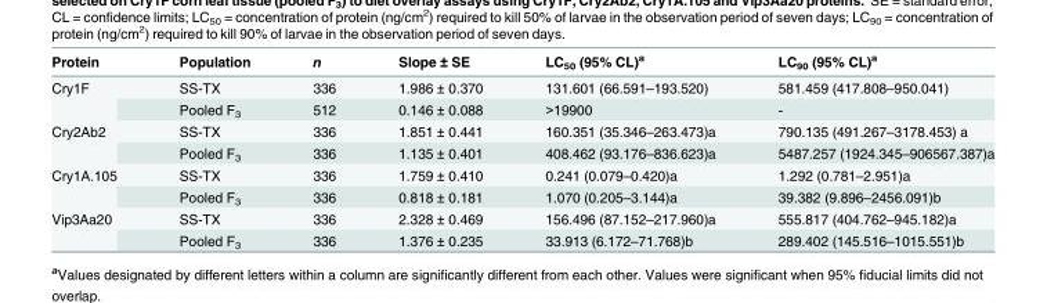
<table><thead><tr><td>Protein</td><td>Population</td><td>n</td><td>Slope ± SE</td><td>LC<sub>50</sub> (95% CL)<sup>a</sup></td><td>LC<sub>90</sub> (95% CL)<sup>a</sup></td></tr></thead><tbody><tr><td rowspan="2">Cry1F</td><td>SS-TX</td><td>336</td><td>1.986 ± 0.370</td><td>131.601 (66.591–193.520)</td><td>581.459 (417.808–950.041)</td></tr><tr><td>Pooled F<sub>3</sub></td><td>512</td><td>0.146 ± 0.088</td><td>&gt;19900</td><td>-</td></tr><tr><td rowspan="2">Cry2Ab2</td><td>SS-TX</td><td>336</td><td>1.851 ± 0.441</td><td>160.351 (35.346–263.473)a</td><td>790.135 (491.267–3178.453) a</td></tr><tr><td>Pooled F<sub>3</sub></td><td>336</td><td>1.135 ± 0.401</td><td>408.462 (93.176–836.623)a</td><td>5487.257 (1924.345–906567.387)a</td></tr><tr><td rowspan="2">Cry1A.105</td><td>SS-TX</td><td>336</td><td>1.759 ± 0.410</td><td>0.241 (0.079–0.420)a</td><td>1.292 (0.781–2.951)a</td></tr><tr><td>Pooled F<sub>3</sub></td><td>336</td><td>0.818 ± 0.181</td><td>1.070 (0.205–3.144)a</td><td>39.382 (9.896–2456.091)b</td></tr><tr><td rowspan="2">Vip3Aa20</td><td>SS-TX</td><td>336</td><td>2.328 ± 0.469</td><td>156.496 (87.152–217.960)a</td><td>555.817 (404.762–945.182)a</td></tr><tr><td>Pooled F<sub>3</sub></td><td>336</td><td>1.376 ± 0.235</td><td>33.913 (6.172–71.768)b</td><td>289.402 (145.516–1015.551)b</td></tr></tbody></table>